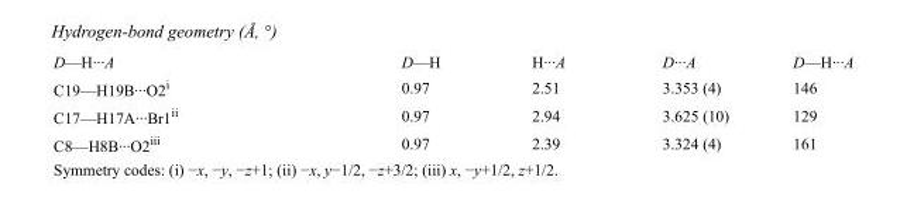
<table><tbody><tr><td>D—H···A</td><td>D—H</td><td>H···A</td><td>D···A</td><td>D—H···A</td></tr><tr><td>C19—H19B···O2<sup>i</sup></td><td>0.97</td><td>2.51</td><td>3.353 (4)</td><td>146</td></tr><tr><td>C17—H17A···Br1<sup>ii</sup></td><td>0.97</td><td>2.94</td><td>3.625 (10)</td><td>129</td></tr><tr><td>C8—H8B···O2<sup>iii</sup></td><td>0.97</td><td>2.39</td><td>3.324 (4)</td><td>161</td></tr></tbody></table>